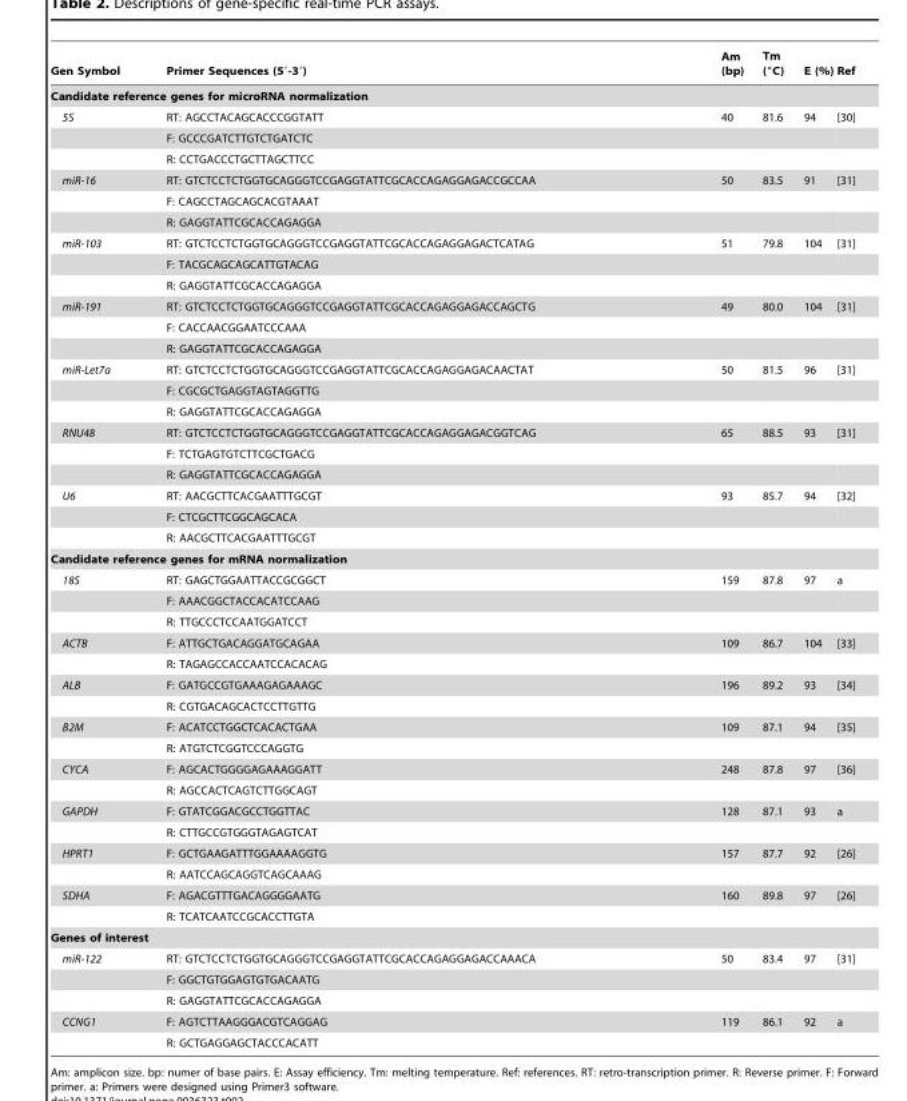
<table><thead><tr><td>Gen Symbol</td><td>Primer Sequences (5′-3′)</td><td>Am (bp)</td><td>Tm (°C)</td><td>E (%)</td><td>Ref</td></tr></thead><tbody><tr><td colspan="6">Candidate reference genes for microRNA normalization</td></tr><tr><td rowspan="3">5S</td><td>RT: AGCCTACAGCACCCGGTATT</td><td>40</td><td>81.6</td><td>94</td><td>[30]</td></tr><tr><td>F: GCCCGATCTTGTCTGATCTC</td><td></td><td></td><td></td><td></td></tr><tr><td>R: CCTGACCCTGCTTAGCTTCC</td><td></td><td></td><td></td><td></td></tr><tr><td rowspan="3">miR-16</td><td>RT: GTCTCCTCTGGTGCAGGGTCCGAGGTATTCGCACCAGAGGAGACCGCCAA</td><td>50</td><td>83.5</td><td>91</td><td>[31]</td></tr><tr><td>F: CAGCCTAGCAGCACGTAAAT</td><td></td><td></td><td></td><td></td></tr><tr><td>R: GAGGTATTCGCACCAGAGGA</td><td></td><td></td><td></td><td></td></tr><tr><td rowspan="3">miR-103</td><td>RT: GTCTCCTCTGGTGCAGGGTCCGAGGTATTCGCACCAGAGGAGACTCATAG</td><td>51</td><td>79.8</td><td>104</td><td>[31]</td></tr><tr><td>F: TACGCAGCAGCATTGTACAG</td><td></td><td></td><td></td><td></td></tr><tr><td>R: GAGGTATTCGCACCAGAGGA</td><td></td><td></td><td></td><td></td></tr><tr><td rowspan="3">miR-191</td><td>RT: GTCTCCTCTGGTGCAGGGTCCGAGGTATTCGCACCAGAGGAGACCAGCTG</td><td>49</td><td>80.0</td><td>104</td><td>[31]</td></tr><tr><td>F: CACCAACGGAATCCCAAA</td><td></td><td></td><td></td><td></td></tr><tr><td>R: GAGGTATTCGCACCAGAGGA</td><td></td><td></td><td></td><td></td></tr><tr><td rowspan="3">miR-Let7a</td><td>RT: GTCTCCTCTGGTGCAGGGTCCGAGGTATTCGCACCAGAGGAGACAACTAT</td><td>50</td><td>81.5</td><td>96</td><td>[31]</td></tr><tr><td>F: CGCGCTGAGGTAGTAGGTTG</td><td></td><td></td><td></td><td></td></tr><tr><td>R: GAGGTATTCGCACCAGAGGA</td><td></td><td></td><td></td><td></td></tr><tr><td rowspan="3">RNU48</td><td>RT: GTCTCCTCTGGTGCAGGGTCCGAGGTATTCGCACCAGAGGAGACGGTCAG</td><td>65</td><td>88.5</td><td>93</td><td>[31]</td></tr><tr><td>F: TCTGAGTGTCTTCGCTGACG</td><td></td><td></td><td></td><td></td></tr><tr><td>R: GAGGTATTCGCACCAGAGGA</td><td></td><td></td><td></td><td></td></tr><tr><td rowspan="3">U6</td><td>RT: AACGCTTCACGAATTTGCGT</td><td>93</td><td>85.7</td><td>94</td><td>[32]</td></tr><tr><td>F: CTCGCTTCGGCAGCACA</td><td></td><td></td><td></td><td></td></tr><tr><td>R: AACGCTTCACGAATTTGCGT</td><td></td><td></td><td></td><td></td></tr><tr><td colspan="6">Candidate reference genes for mRNA normalization</td></tr><tr><td rowspan="3">18S</td><td>RT: GAGCTGGAATTACCGCGGCT</td><td>159</td><td>87.8</td><td>97</td><td>a</td></tr><tr><td>F: AAACGGCTACCACATCCAAG</td><td></td><td></td><td></td><td></td></tr><tr><td>R: TTGCCCTCCAATGGATCCT</td><td></td><td></td><td></td><td></td></tr><tr><td rowspan="2">ACTB</td><td>F: ATTGCTGACAGGATGCAGAA</td><td>109</td><td>86.7</td><td>104</td><td>[33]</td></tr><tr><td>R: TAGAGCCACCAATCCACACAG</td><td></td><td></td><td></td><td></td></tr><tr><td rowspan="2">ALB</td><td>F: GATGCCGTGAAAGAGAAAGC</td><td>196</td><td>89.2</td><td>93</td><td>[34]</td></tr><tr><td>R: CGTGACAGCACTCCTTGTTG</td><td></td><td></td><td></td><td></td></tr><tr><td rowspan="2">B2M</td><td>F: ACATCCTGGCTCACACTGAA</td><td>109</td><td>87.1</td><td>94</td><td>[35]</td></tr><tr><td>R: ATGTCTCGGTCCCAGGTG</td><td></td><td></td><td></td><td></td></tr><tr><td rowspan="2">CYCA</td><td>F: AGCACTGGGGAGAAAGGATT</td><td>248</td><td>87.8</td><td>97</td><td>[36]</td></tr><tr><td>R: AGCCACTCAGTCTTGGCAGT</td><td></td><td></td><td></td><td></td></tr><tr><td rowspan="2">GAPDH</td><td>F: GTATCGGACGCCTGGTTAC</td><td>128</td><td>87.1</td><td>93</td><td>a</td></tr><tr><td>R: CTTGCCGTGGGTAGAGTCAT</td><td></td><td></td><td></td><td></td></tr><tr><td rowspan="2">HPRT1</td><td>F: GCTGAAGATTTGGAAAAGGTG</td><td>157</td><td>87.7</td><td>92</td><td>[26]</td></tr><tr><td>R: AATCCAGCAGGTCAGCAAAG</td><td></td><td></td><td></td><td></td></tr><tr><td rowspan="2">SDHA</td><td>F: AGACGTTTGACAGGGGAATG</td><td>160</td><td>89.8</td><td>97</td><td>[26]</td></tr><tr><td>R: TCATCAATCCGCACCTTGTA</td><td></td><td></td><td></td><td></td></tr><tr><td colspan="6">Genes of interest</td></tr><tr><td rowspan="3">miR-122</td><td>RT: GTCTCCTCTGGTGCAGGGTCCGAGGTATTCGCACCAGAGGAGACCAAACA</td><td>50</td><td>83.4</td><td>97</td><td>[31]</td></tr><tr><td>F: GGCTGTGGAGTGTGACAATG</td><td></td><td></td><td></td><td></td></tr><tr><td>R: GAGGTATTCGCACCAGAGGA</td><td></td><td></td><td></td><td></td></tr><tr><td rowspan="2">CCNG1</td><td>F: AGTCTTAAGGGACGTCAGGAG</td><td>119</td><td>86.1</td><td>92</td><td>a</td></tr><tr><td>R: GCTGAGGAGCTACCCACATT</td><td></td><td></td><td></td><td></td></tr></tbody></table>